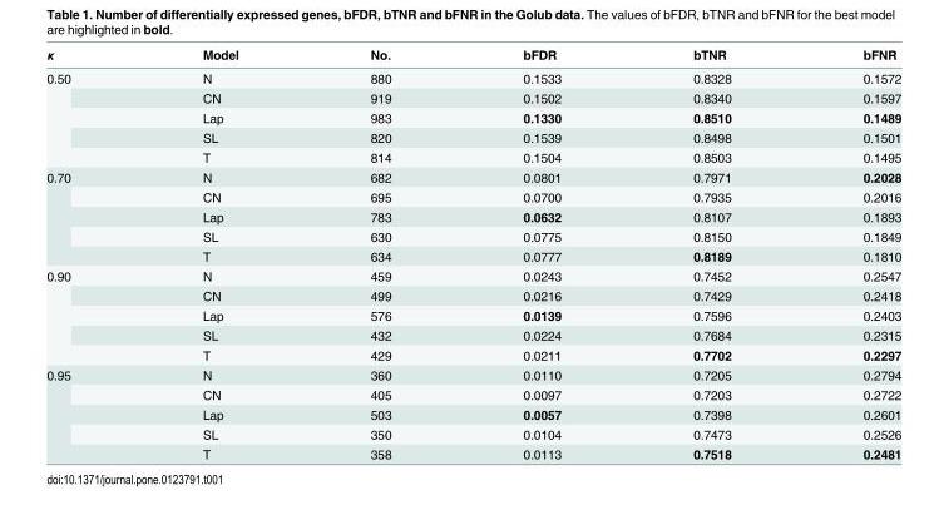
<table><thead><tr><td>κ</td><td>Model</td><td>No.</td><td>bFDR</td><td>bTNR</td><td>bFNR</td></tr></thead><tbody><tr><td rowspan="5">0.50</td><td>N</td><td>880</td><td>0.1533</td><td>0.8328</td><td>0.1572</td></tr><tr><td>CN</td><td>919</td><td>0.1502</td><td>0.8340</td><td>0.1597</td></tr><tr><td>Lap</td><td>983</td><td>0.1330</td><td>0.8510</td><td>0.1489</td></tr><tr><td>SL</td><td>820</td><td>0.1539</td><td>0.8498</td><td>0.1501</td></tr><tr><td>T</td><td>814</td><td>0.1504</td><td>0.8503</td><td>0.1495</td></tr><tr><td rowspan="5">0.70</td><td>N</td><td>682</td><td>0.0801</td><td>0.7971</td><td>0.2028</td></tr><tr><td>CN</td><td>695</td><td>0.0700</td><td>0.7935</td><td>0.2016</td></tr><tr><td>Lap</td><td>783</td><td>0.0632</td><td>0.8107</td><td>0.1893</td></tr><tr><td>SL</td><td>630</td><td>0.0775</td><td>0.8150</td><td>0.1849</td></tr><tr><td>T</td><td>634</td><td>0.0777</td><td>0.8189</td><td>0.1810</td></tr><tr><td rowspan="5">0.90</td><td>N</td><td>459</td><td>0.0243</td><td>0.7452</td><td>0.2547</td></tr><tr><td>CN</td><td>499</td><td>0.0216</td><td>0.7429</td><td>0.2418</td></tr><tr><td>Lap</td><td>576</td><td>0.0139</td><td>0.7596</td><td>0.2403</td></tr><tr><td>SL</td><td>432</td><td>0.0224</td><td>0.7684</td><td>0.2315</td></tr><tr><td>T</td><td>429</td><td>0.0211</td><td>0.7702</td><td>0.2297</td></tr><tr><td rowspan="5">0.95</td><td>N</td><td>360</td><td>0.0110</td><td>0.7205</td><td>0.2794</td></tr><tr><td>CN</td><td>405</td><td>0.0097</td><td>0.7203</td><td>0.2722</td></tr><tr><td>Lap</td><td>503</td><td>0.0057</td><td>0.7398</td><td>0.2601</td></tr><tr><td>SL</td><td>350</td><td>0.0104</td><td>0.7473</td><td>0.2526</td></tr><tr><td>T</td><td>358</td><td>0.0113</td><td>0.7518</td><td>0.2481</td></tr></tbody></table>